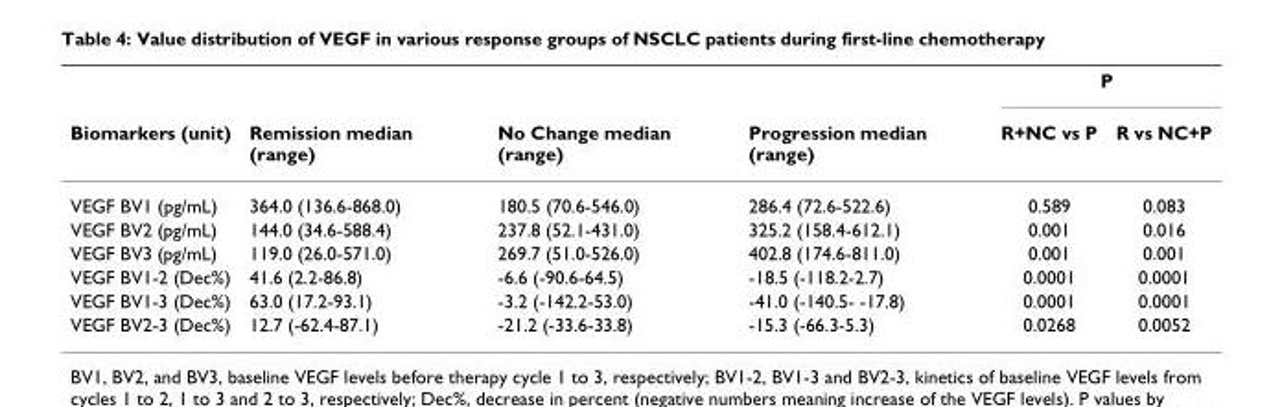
<table><thead><tr><td rowspan="2">Biomarkers (unit)</td><td rowspan="2">Remission median (range)</td><td rowspan="2">No Change median (range)</td><td rowspan="2">Progression median (range)</td><td colspan="2">P</td></tr><tr><td>R+NC vs P</td><td>R vs NC+P</td></tr></thead><tbody><tr><td>VEGF BV1 (pg/mL)</td><td>364.0 (136.6-868.0)</td><td>180.5 (70.6-546.0)</td><td>286.4 (72.6-522.6)</td><td>0.589</td><td>0.083</td></tr><tr><td>VEGF BV2 (pg/mL)</td><td>144.0 (34.6-588.4)</td><td>237.8 (52.1-431.0)</td><td>325.2 (158.4-612.1)</td><td>0.001</td><td>0.016</td></tr><tr><td>VEGF BV3 (pg/mL)</td><td>119.0 (26.0-571.0)</td><td>269.7 (51.0-526.0)</td><td>402.8 (174.6-811.0)</td><td>0.001</td><td>0.001</td></tr><tr><td>VEGF BV1-2 (Dec%)</td><td>41.6 (2.2-86.8)</td><td>-6.6 (-90.6-64.5)</td><td>-18.5 (-118.2-2.7)</td><td>0.0001</td><td>0.0001</td></tr><tr><td>VEGF BV1-3 (Dec%)</td><td>63.0 (17.2-93.1)</td><td>-3.2 (-142.2-53.0)</td><td>-41.0 (-140.5- -17.8)</td><td>0.0001</td><td>0.0001</td></tr><tr><td>VEGF BV2-3 (Dec%)</td><td>12.7 (-62.4-87.1)</td><td>-21.2 (-33.6-33.8)</td><td>-15.3 (-66.3-5.3)</td><td>0.0268</td><td>0.0052</td></tr></tbody></table>